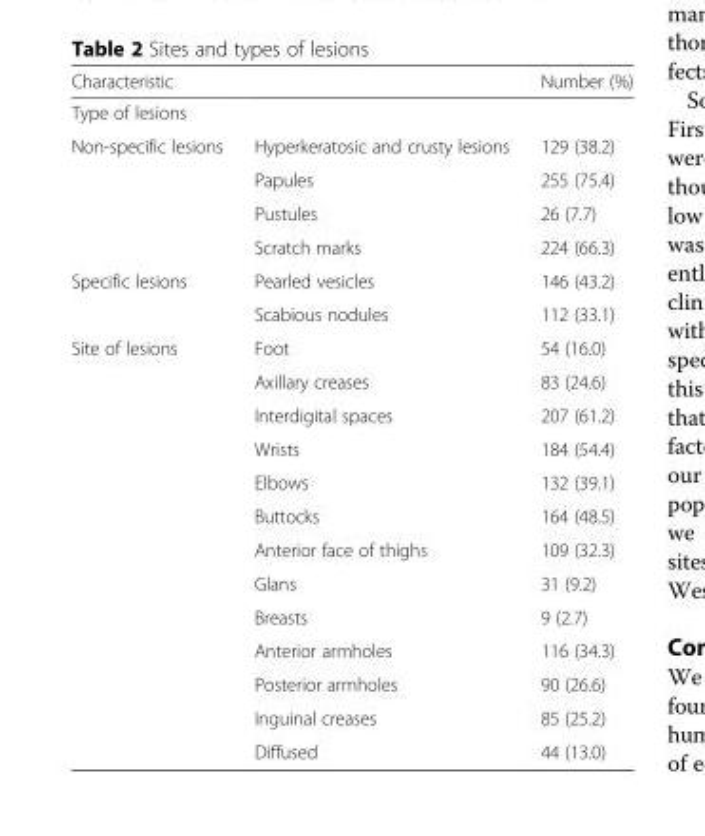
<table><thead><tr><td>Characteristic</td><td></td><td>Number (%)</td></tr></thead><tbody><tr><td colspan="3">Type of lesions</td></tr><tr><td rowspan="4">Non-specific lesions</td><td>Hyperkeratosic and crusty lesions</td><td>129 (38.2)</td></tr><tr><td>Papules</td><td>255 (75.4)</td></tr><tr><td>Pustules</td><td>26 (7.7)</td></tr><tr><td>Scratch marks</td><td>224 (66.3)</td></tr><tr><td rowspan="2">Specific lesions</td><td>Pearled vesicles</td><td>146 (43.2)</td></tr><tr><td>Scabious nodules</td><td>112 (33.1)</td></tr><tr><td rowspan="13">Site of lesions</td><td>Foot</td><td>54 (16.0)</td></tr><tr><td>Axillary creases</td><td>83 (24.6)</td></tr><tr><td>Interdigital spaces</td><td>207 (61.2)</td></tr><tr><td>Wrists</td><td>184 (54.4)</td></tr><tr><td>Elbows</td><td>132 (39.1)</td></tr><tr><td>Buttocks</td><td>164 (48.5)</td></tr><tr><td>Anterior face of thighs</td><td>109 (32.3)</td></tr><tr><td>Glans</td><td>31 (9.2)</td></tr><tr><td>Breasts</td><td>9 (2.7)</td></tr><tr><td>Anterior armholes</td><td>116 (34.3)</td></tr><tr><td>Posterior armholes</td><td>90 (26.6)</td></tr><tr><td>Inguinal creases</td><td>85 (25.2)</td></tr><tr><td>Diffused</td><td>44 (13.0)</td></tr></tbody></table>